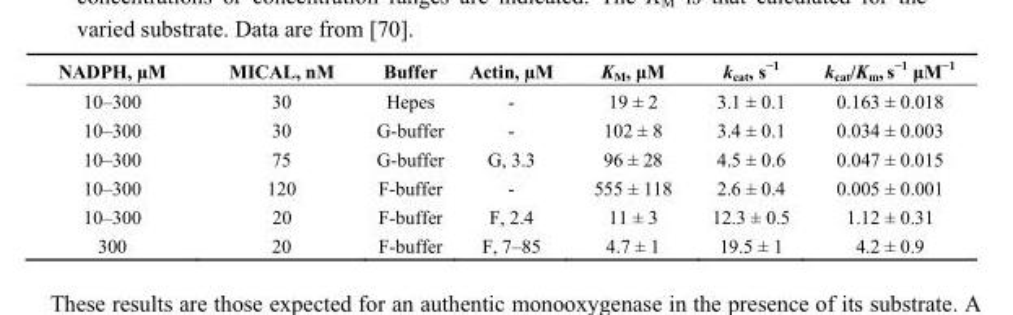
<table><thead><tr><td>NADPH, µM</td><td>MICAL, nM</td><td>Buffer</td><td>Actin, µM</td><td>K<sub>M</sub>, μM</td><td>k<sub>cat</sub>, s<sup>−1</sup></td><td>k<sub>cat</sub>/K<sub>m</sub>, s<sup>−1</sup> μM<sup>−1</sup></td></tr></thead><tbody><tr><td>10–300</td><td>30</td><td>Hepes</td><td>-</td><td>19 ± 2</td><td>3.1 ± 0.1</td><td>0.163 ± 0.018</td></tr><tr><td>10–300</td><td>30</td><td>G-buffer</td><td>-</td><td>102 ± 8</td><td>3.4 ± 0.1</td><td>0.034 ± 0.003</td></tr><tr><td>10–300</td><td>75</td><td>G-buffer</td><td>G, 3.3</td><td>96 ± 28</td><td>4.5 ± 0.6</td><td>0.047 ± 0.015</td></tr><tr><td>10–300</td><td>120</td><td>F-buffer</td><td>-</td><td>555 ± 118</td><td>2.6 ± 0.4</td><td>0.005 ± 0.001</td></tr><tr><td>10–300</td><td>20</td><td>F-buffer</td><td>F, 2.4</td><td>11 ± 3</td><td>12.3 ± 0.5</td><td>1.12 ± 0.31</td></tr><tr><td>300</td><td>20</td><td>F-buffer</td><td>F, 7–85</td><td>4.7 ± 1</td><td>19.5 ± 1</td><td>4.2 ± 0.9</td></tr></tbody></table>